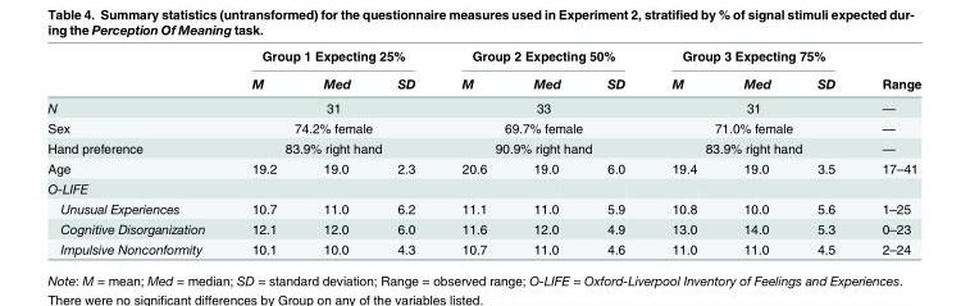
<table><thead><tr><td rowspan="2"></td><td colspan="3">Group 1 Expecting 25%</td><td colspan="3">Group 2 Expecting 50%</td><td colspan="3">Group 3 Expecting 75%</td><td rowspan="2">Range</td></tr><tr><td>M</td><td>Med</td><td>SD</td><td>M</td><td>Med</td><td>SD</td><td>M</td><td>Med</td><td>SD</td></tr></thead><tbody><tr><td>N</td><td colspan="3">31</td><td colspan="3">33</td><td colspan="3">31</td><td>—</td></tr><tr><td>Sex</td><td colspan="3">74.2% female</td><td colspan="3">69.7% female</td><td colspan="3">71.0% female</td><td>—</td></tr><tr><td>Hand preference</td><td colspan="3">83.9% right hand</td><td colspan="3">90.9% right hand</td><td colspan="3">83.9% right hand</td><td>—</td></tr><tr><td>Age</td><td>19.2</td><td>19.0</td><td>2.3</td><td>20.6</td><td>19.0</td><td>6.0</td><td>19.4</td><td>19.0</td><td>3.5</td><td>17–41</td></tr><tr><td colspan="11">O-LIFE</td></tr><tr><td>Unusual Experiences</td><td>10.7</td><td>11.0</td><td>6.2</td><td>11.1</td><td>11.0</td><td>5.9</td><td>10.8</td><td>10.0</td><td>5.6</td><td>1–25</td></tr><tr><td>Cognitive Disorganization</td><td>12.1</td><td>12.0</td><td>6.0</td><td>11.6</td><td>12.0</td><td>4.9</td><td>13.0</td><td>14.0</td><td>5.3</td><td>0–23</td></tr><tr><td>Impulsive Nonconformity</td><td>10.1</td><td>10.0</td><td>4.3</td><td>10.7</td><td>11.0</td><td>4.6</td><td>11.0</td><td>11.0</td><td>4.5</td><td>2–24</td></tr></tbody></table>